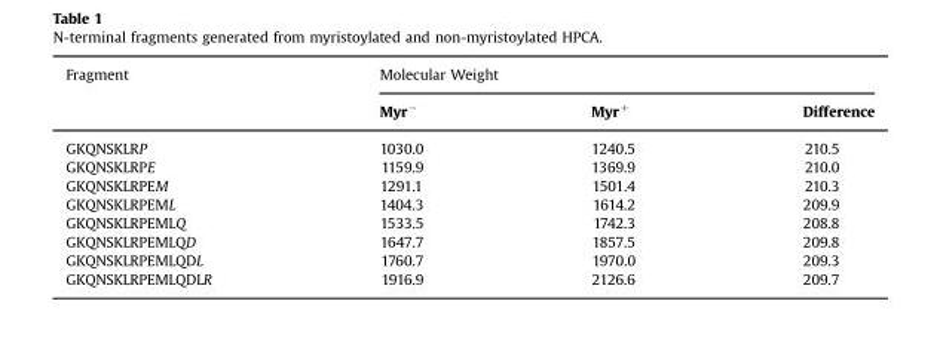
<table><thead><tr><td rowspan="2">Fragment</td><td colspan="3">Molecular Weight</td></tr><tr><td>Myr<sup>−</sup></td><td>Myr<sup>+</sup></td><td>Difference</td></tr></thead><tbody><tr><td>GKQNSKLRP</td><td>1030.0</td><td>1240.5</td><td>210.5</td></tr><tr><td>GKQNSKLRPE</td><td>1159.9</td><td>1369.9</td><td>210.0</td></tr><tr><td>GKQNSKLRPEM</td><td>1291.1</td><td>1501.4</td><td>210.3</td></tr><tr><td>GKQNSKLRPEML</td><td>1404.3</td><td>1614.2</td><td>209.9</td></tr><tr><td>GKQNSKLRPEMLQ</td><td>1533.5</td><td>1742.3</td><td>208.8</td></tr><tr><td>GKQNSKLRPEMLQD</td><td>1647.7</td><td>1857.5</td><td>209.8</td></tr><tr><td>GKQNSKLRPEMLQDL</td><td>1760.7</td><td>1970.0</td><td>209.3</td></tr><tr><td>GKQNSKLRPEMLQDLR</td><td>1916.9</td><td>2126.6</td><td>209.7</td></tr></tbody></table>